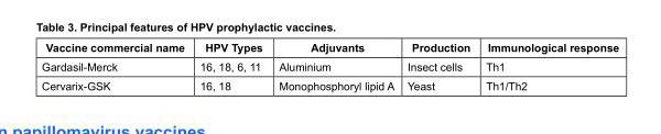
<table><thead><tr><td>Vaccine commercial name</td><td>HPV Types</td><td>Adjuvants</td><td>Production</td><td>Immunological response</td></tr></thead><tbody><tr><td>Gardasil-Merck</td><td>16, 18, 6, 11</td><td>Aluminium</td><td>Insect cells</td><td>Th1</td></tr><tr><td>Cervarix-GSK</td><td>16, 18</td><td>Monophosphoryl lipid A</td><td>Yeast</td><td>Th1/Th2</td></tr></tbody></table>